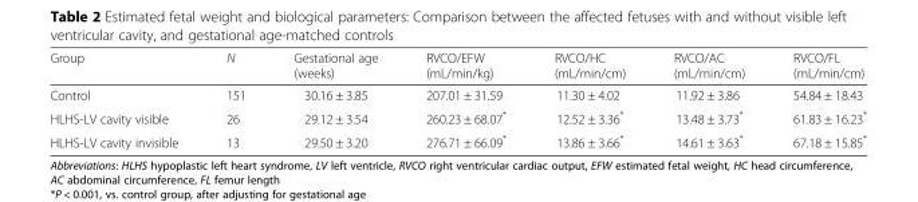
<table><thead><tr><td>Group</td><td>N</td><td>Gestational age (weeks)</td><td>RVCO/EFW (mL/min/kg)</td><td>RVCO/HC (mL/min/cm)</td><td>RVCO/AC (mL/min/cm)</td><td>RVCO/FL (mL/min/cm)</td></tr></thead><tbody><tr><td>Control</td><td>151</td><td>30.16 ± 3.85</td><td>207.01 ± 31.59</td><td>11.30 ± 4.02</td><td>11.92 ± 3.86</td><td>54.84 ± 18.43</td></tr><tr><td>HLHS-LV cavity visible</td><td>26</td><td>29.12 ± 3.54</td><td>260.23 ± 68.07*</td><td>12.52 ± 3.36*</td><td>13.48 ± 3.73*</td><td>61.83 ± 16.23*</td></tr><tr><td>HLHS-LV cavity invisible</td><td>13</td><td>29.50 ± 3.20</td><td>276.71 ± 66.09*</td><td>13.86 ± 3.66*</td><td>14.61 ± 3.63*</td><td>67.18 ± 15.85*</td></tr></tbody></table>